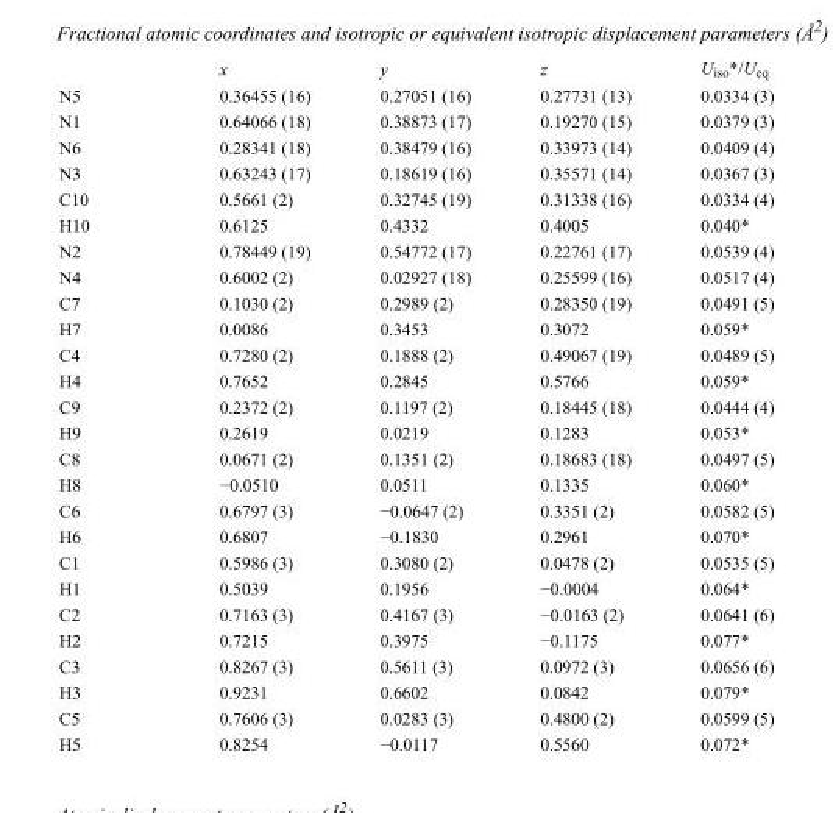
<table><thead><tr><td></td><td>x</td><td>y</td><td>z</td><td>U<sub>iso</sub>*/U<sub>eq</sub></td></tr></thead><tbody><tr><td>N5</td><td>0.36455 (16)</td><td>0.27051 (16)</td><td>0.27731 (13)</td><td>0.0334 (3)</td></tr><tr><td>N1</td><td>0.64066 (18)</td><td>0.38873 (17)</td><td>0.19270 (15)</td><td>0.0379 (3)</td></tr><tr><td>N6</td><td>0.28341 (18)</td><td>0.38479 (16)</td><td>0.33973 (14)</td><td>0.0409 (4)</td></tr><tr><td>N3</td><td>0.63243 (17)</td><td>0.18619 (16)</td><td>0.35571 (14)</td><td>0.0367 (3)</td></tr><tr><td>C10</td><td>0.5661 (2)</td><td>0.32745 (19)</td><td>0.31338 (16)</td><td>0.0334 (4)</td></tr><tr><td>H10</td><td>0.6125</td><td>0.4332</td><td>0.4005</td><td>0.040*</td></tr><tr><td>N2</td><td>0.78449 (19)</td><td>0.54772 (17)</td><td>0.22761 (17)</td><td>0.0539 (4)</td></tr><tr><td>N4</td><td>0.6002 (2)</td><td>0.02927 (18)</td><td>0.25599 (16)</td><td>0.0517 (4)</td></tr><tr><td>C7</td><td>0.1030 (2)</td><td>0.2989 (2)</td><td>0.28350 (19)</td><td>0.0491 (5)</td></tr><tr><td>H7</td><td>0.0086</td><td>0.3453</td><td>0.3072</td><td>0.059*</td></tr><tr><td>C4</td><td>0.7280 (2)</td><td>0.1888 (2)</td><td>0.49067 (19)</td><td>0.0489 (5)</td></tr><tr><td>H4</td><td>0.7652</td><td>0.2845</td><td>0.5766</td><td>0.059*</td></tr><tr><td>C9</td><td>0.2372 (2)</td><td>0.1197 (2)</td><td>0.18445 (18)</td><td>0.0444 (4)</td></tr><tr><td>H9</td><td>0.2619</td><td>0.0219</td><td>0.1283</td><td>0.053*</td></tr><tr><td>C8</td><td>0.0671 (2)</td><td>0.1351 (2)</td><td>0.18683 (18)</td><td>0.0497 (5)</td></tr><tr><td>H8</td><td>−0.0510</td><td>0.0511</td><td>0.1335</td><td>0.060*</td></tr><tr><td>C6</td><td>0.6797 (3)</td><td>−0.0647 (2)</td><td>0.3351 (2)</td><td>0.0582 (5)</td></tr><tr><td>H6</td><td>0.6807</td><td>−0.1830</td><td>0.2961</td><td>0.070*</td></tr><tr><td>C1</td><td>0.5986 (3)</td><td>0.3080 (2)</td><td>0.0478 (2)</td><td>0.0535 (5)</td></tr><tr><td>H1</td><td>0.5039</td><td>0.1956</td><td>−0.0004</td><td>0.064*</td></tr><tr><td>C2</td><td>0.7163 (3)</td><td>0.4167 (3)</td><td>−0.0163 (2)</td><td>0.0641 (6)</td></tr><tr><td>H2</td><td>0.7215</td><td>0.3975</td><td>−0.1175</td><td>0.077*</td></tr><tr><td>C3</td><td>0.8267 (3)</td><td>0.5611 (3)</td><td>0.0972 (3)</td><td>0.0656 (6)</td></tr><tr><td>H3</td><td>0.9231</td><td>0.6602</td><td>0.0842</td><td>0.079*</td></tr><tr><td>C5</td><td>0.7606 (3)</td><td>0.0283 (3)</td><td>0.4800 (2)</td><td>0.0599 (5)</td></tr><tr><td>H5</td><td>0.8254</td><td>−0.0117</td><td>0.5560</td><td>0.072*</td></tr></tbody></table>